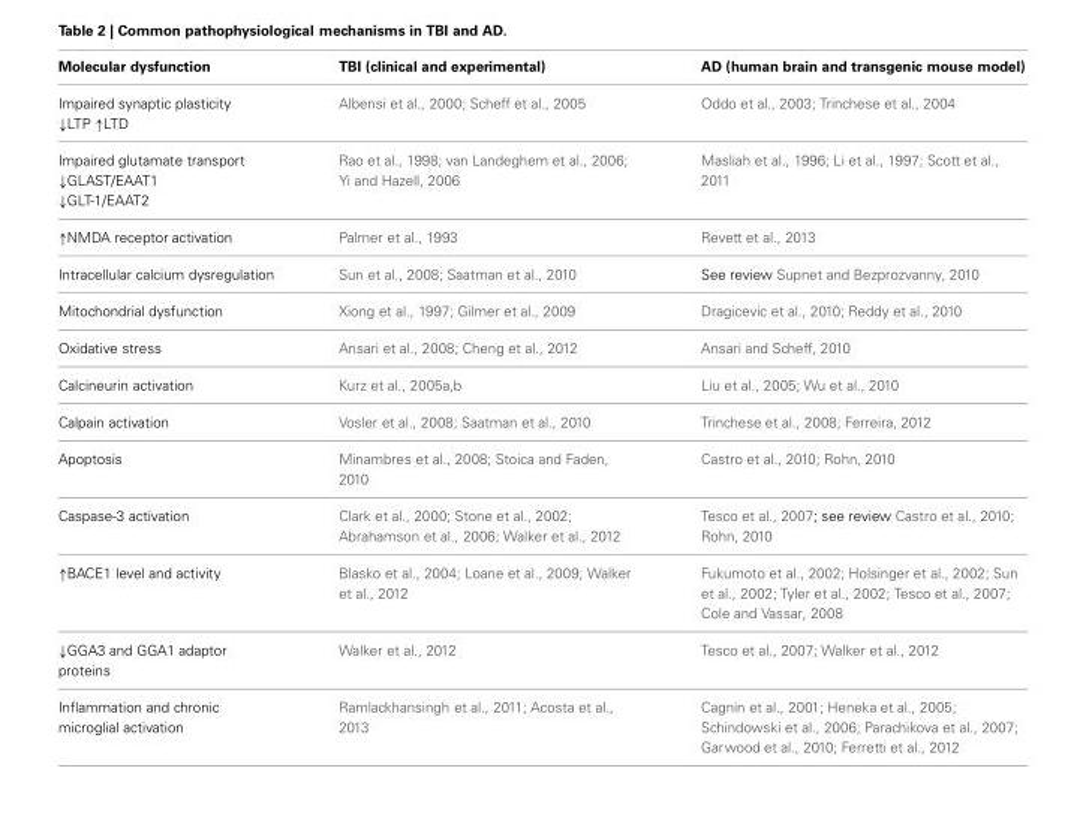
<table><thead><tr><td>Molecular dysfunction</td><td>TBI (clinical and experimental)</td><td>AD (human brain and transgenic mouse model)</td></tr></thead><tbody><tr><td>Impaired synaptic plasticity ↓LTP ↑LTD</td><td>Albensi et al., 2000; Scheff et al., 2005</td><td>Oddo et al., 2003; Trinchese et al., 2004</td></tr><tr><td>Impaired glutamate transport ↓GLAST/EAAT1 ↓GLT-1/EAAT2</td><td>Rao et al., 1998; van Landeghem et al., 2006; Yi and Hazell, 2006</td><td>Masliah et al., 1996; Li et al., 1997; Scott et al., 2011</td></tr><tr><td>↑NMDA receptor activation</td><td>Palmer et al., 1993</td><td>Revett et al., 2013</td></tr><tr><td>Intracellular calcium dysregulation</td><td>Sun et al., 2008; Saatman et al., 2010</td><td>See review Supnet and Bezprozvanny, 2010</td></tr><tr><td>Mitochondrial dysfunction</td><td>Xiong et al., 1997; Gilmer et al., 2009</td><td>Dragicevic et al., 2010; Reddy et al., 2010</td></tr><tr><td>Oxidative stress</td><td>Ansari et al., 2008; Cheng et al., 2012</td><td>Ansari and Scheff, 2010</td></tr><tr><td>Calcineurin activation</td><td>Kurz et al., 2005a,b</td><td>Liu et al., 2005; Wu et al., 2010</td></tr><tr><td>Calpain activation</td><td>Vosler et al., 2008; Saatman et al., 2010</td><td>Trinchese et al., 2008; Ferreira, 2012</td></tr><tr><td>Apoptosis</td><td>Minambres et al., 2008; Stoica and Faden, 2010</td><td>Castro et al., 2010; Rohn, 2010</td></tr><tr><td>Caspase-3 activation</td><td>Clark et al., 2000; Stone et al., 2002; Abrahamson et al., 2006; Walker et al., 2012</td><td>Tesco et al., 2007; see review Castro et al., 2010; Rohn, 2010</td></tr><tr><td>↑BACE1 level and activity</td><td>Blasko et al., 2004; Loane et al., 2009; Walker et al., 2012</td><td>Fukumoto et al., 2002; Holsinger et al., 2002; Sun et al., 2002; Tyler et al., 2002; Tesco et al., 2007; Cole and Vassar, 2008</td></tr><tr><td>↓GGA3 and GGA1 adaptor proteins</td><td>Walker et al., 2012</td><td>Tesco et al., 2007; Walker et al., 2012</td></tr><tr><td>Inflammation and chronic microglial activation</td><td>Ramlackhansingh et al., 2011; Acosta et al., 2013</td><td>Cagnin et al., 2001; Heneka et al., 2005; Schindowski et al., 2006; Parachikova et al., 2007; Garwood et al., 2010; Ferretti et al., 2012</td></tr></tbody></table>